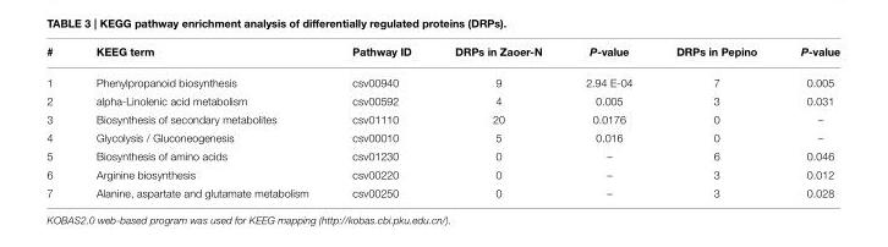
<table><thead><tr><td>#</td><td>KEEG term</td><td>Pathway ID</td><td>DRPs in Zaoer-N</td><td>P-value</td><td>DRPs in Pepino</td><td>P-value</td></tr></thead><tbody><tr><td>1</td><td>Phenylpropanoid biosynthesis</td><td>csv00940</td><td>9</td><td>2.94 E-04</td><td>7</td><td>0.005</td></tr><tr><td>2</td><td>alpha-Linolenic acid metabolism</td><td>csv00592</td><td>4</td><td>0.005</td><td>3</td><td>0.031</td></tr><tr><td>3</td><td>Biosynthesis of secondary metabolites</td><td>csv01110</td><td>20</td><td>0.0176</td><td>0</td><td>–</td></tr><tr><td>4</td><td>Glycolysis / Gluconeogenesis</td><td>csv00010</td><td>5</td><td>0.016</td><td>0</td><td>–</td></tr><tr><td>5</td><td>Biosynthesis of amino acids</td><td>csv01230</td><td>0</td><td>–</td><td>6</td><td>0.046</td></tr><tr><td>6</td><td>Arginine biosynthesis</td><td>csv00220</td><td>0</td><td>–</td><td>3</td><td>0.012</td></tr><tr><td>7</td><td>Alanine, aspartate and glutamate metabolism</td><td>csv00250</td><td>0</td><td>–</td><td>3</td><td>0.028</td></tr></tbody></table>